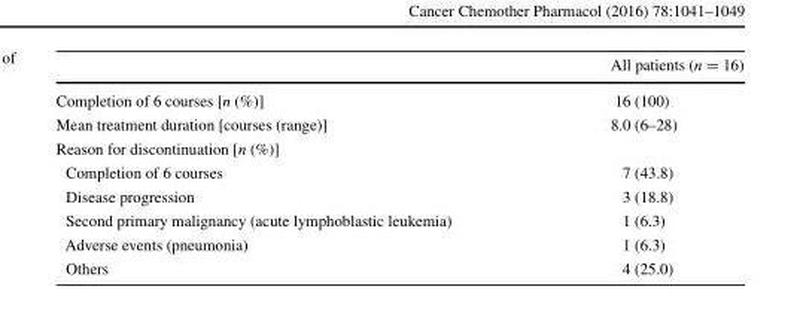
<table><thead><tr><td></td><td>All patients (n = 16)</td></tr></thead><tbody><tr><td>Completion of 6 courses [n (%)]</td><td>16 (100)</td></tr><tr><td>Mean treatment duration [courses (range)]</td><td>8.0 (6–28)</td></tr><tr><td colspan="2">Reason for discontinuation [n (%)]</td></tr><tr><td>Completion of 6 courses</td><td>7 (43.8)</td></tr><tr><td>Disease progression</td><td>3 (18.8)</td></tr><tr><td>Second primary malignancy (acute lymphoblastic leukemia)</td><td>1 (6.3)</td></tr><tr><td>Adverse events (pneumonia)</td><td>1 (6.3)</td></tr><tr><td>Others</td><td>4 (25.0)</td></tr></tbody></table>